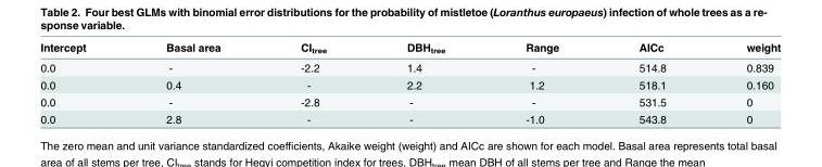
<table><thead><tr><td>Intercept</td><td>Basal area</td><td>CI<sub>tree</sub></td><td>DBH<sub>tree</sub></td><td>Range</td><td>AICc</td><td>weight</td></tr></thead><tbody><tr><td>0.0</td><td>-</td><td>-2.2</td><td>1.4</td><td>-</td><td>514.8</td><td>0.839</td></tr><tr><td>0.0</td><td>0.4</td><td>-</td><td>2.2</td><td>1.2</td><td>518.1</td><td>0.160</td></tr><tr><td>0.0</td><td>-</td><td>-2.8</td><td>-</td><td>-</td><td>531.5</td><td>0</td></tr><tr><td>0.0</td><td>2.8</td><td>-</td><td>-</td><td>-1.0</td><td>543.8</td><td>0</td></tr></tbody></table>